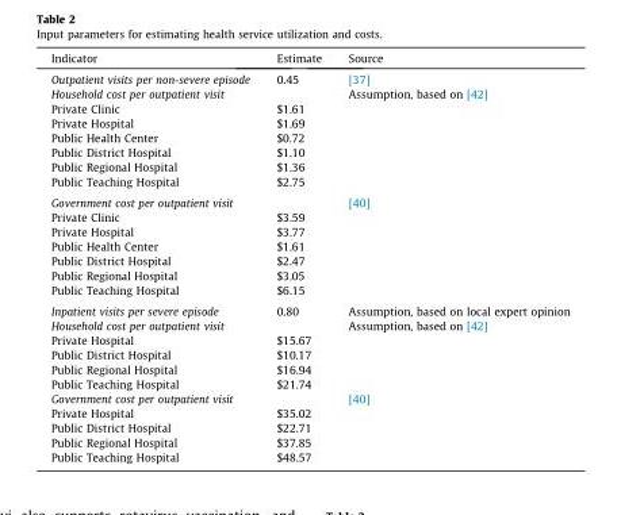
<table><thead><tr><td>Indicator</td><td>Estimate</td><td>Source</td></tr></thead><tbody><tr><td>Outpatient visits per non-severe episode</td><td>0.45</td><td>[37]</td></tr><tr><td>Household cost per outpatient visit</td><td></td><td>Assumption, based on [42]</td></tr><tr><td>Private Clinic</td><td>$1.61</td><td></td></tr><tr><td>Private Hospital</td><td>$1.69</td><td></td></tr><tr><td>Public Health Center</td><td>$0.72</td><td></td></tr><tr><td>Public District Hospital</td><td>$1.10</td><td></td></tr><tr><td>Public Regional Hospital</td><td>$1.36</td><td></td></tr><tr><td>Public Teaching Hospital</td><td>$2.75</td><td></td></tr><tr><td>Government cost per outpatient visit</td><td></td><td>[40]</td></tr><tr><td>Private Clinic</td><td>$3.59</td><td></td></tr><tr><td>Private Hospital</td><td>$3.77</td><td></td></tr><tr><td>Public Health Center</td><td>$1.61</td><td></td></tr><tr><td>Public District Hospital</td><td>$2.47</td><td></td></tr><tr><td>Public Regional Hospital</td><td>$3.05</td><td></td></tr><tr><td>Public Teaching Hospital</td><td>$6.15</td><td></td></tr><tr><td>Inpatient visits per severe episode</td><td>0.80</td><td>Assumption, based on local expert opinion</td></tr><tr><td>Household cost per outpatient visit</td><td></td><td>Assumption, based on [42]</td></tr><tr><td>Private Hospital</td><td>$15.67</td><td></td></tr><tr><td>Public District Hospital</td><td>$10.17</td><td></td></tr><tr><td>Public Regional Hospital</td><td>$16.94</td><td></td></tr><tr><td>Public Teaching Hospital</td><td>$21.74</td><td></td></tr><tr><td>Government cost per outpatient visit</td><td></td><td>[40]</td></tr><tr><td>Private Hospital</td><td>$35.02</td><td></td></tr><tr><td>Public District Hospital</td><td>$22.71</td><td></td></tr><tr><td>Public Regional Hospital</td><td>$37.85</td><td></td></tr><tr><td>Public Teaching Hospital</td><td>$48.57</td><td></td></tr></tbody></table>